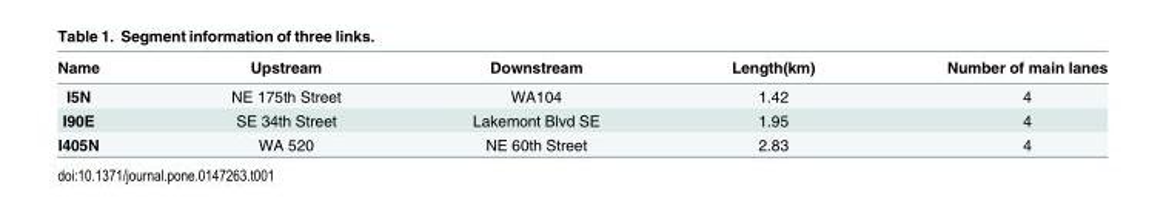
<table><thead><tr><td>Name</td><td>Upstream</td><td>Downstream</td><td>Length(km)</td><td>Number of main lanes</td></tr></thead><tbody><tr><td>I5N</td><td>NE 175th Street</td><td>WA104</td><td>1.42</td><td>4</td></tr><tr><td>I90E</td><td>SE 34th Street</td><td>Lakemont Blvd SE</td><td>1.95</td><td>4</td></tr><tr><td>I405N</td><td>WA 520</td><td>NE 60th Street</td><td>2.83</td><td>4</td></tr></tbody></table>